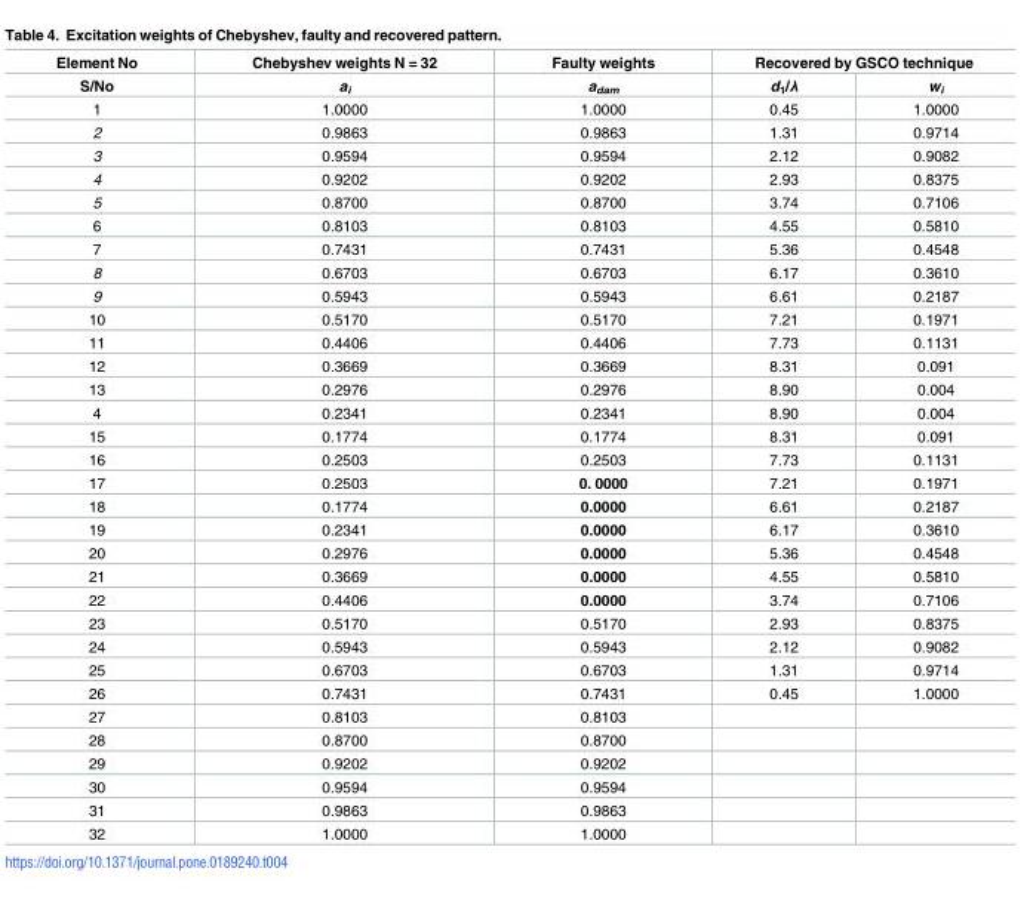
<table><thead><tr><td rowspan="2">Element No S/No</td><td rowspan="2">Chebyshev weights N = 32 a<sub>i</sub></td><td rowspan="2">Faulty weights a<sub>dam</sub></td><td colspan="2">Recovered by GSCO technique</td></tr><tr><td>d<sub>1</sub>/λ</td><td>w<sub>i</sub></td></tr></thead><tbody><tr><td>1</td><td>1.0000</td><td>1.0000</td><td>0.45</td><td>1.0000</td></tr><tr><td>2</td><td>0.9863</td><td>0.9863</td><td>1.31</td><td>0.9714</td></tr><tr><td>3</td><td>0.9594</td><td>0.9594</td><td>2.12</td><td>0.9082</td></tr><tr><td>4</td><td>0.9202</td><td>0.9202</td><td>2.93</td><td>0.8375</td></tr><tr><td>5</td><td>0.8700</td><td>0.8700</td><td>3.74</td><td>0.7106</td></tr><tr><td>6</td><td>0.8103</td><td>0.8103</td><td>4.55</td><td>0.5810</td></tr><tr><td>7</td><td>0.7431</td><td>0.7431</td><td>5.36</td><td>0.4548</td></tr><tr><td>8</td><td>0.6703</td><td>0.6703</td><td>6.17</td><td>0.3610</td></tr><tr><td>9</td><td>0.5943</td><td>0.5943</td><td>6.61</td><td>0.2187</td></tr><tr><td>10</td><td>0.5170</td><td>0.5170</td><td>7.21</td><td>0.1971</td></tr><tr><td>11</td><td>0.4406</td><td>0.4406</td><td>7.73</td><td>0.1131</td></tr><tr><td>12</td><td>0.3669</td><td>0.3669</td><td>8.31</td><td>0.091</td></tr><tr><td>13</td><td>0.2976</td><td>0.2976</td><td>8.90</td><td>0.004</td></tr><tr><td>4</td><td>0.2341</td><td>0.2341</td><td>8.90</td><td>0.004</td></tr><tr><td>15</td><td>0.1774</td><td>0.1774</td><td>8.31</td><td>0.091</td></tr><tr><td>16</td><td>0.2503</td><td>0.2503</td><td>7.73</td><td>0.1131</td></tr><tr><td>17</td><td>0.2503</td><td>0. 0000</td><td>7.21</td><td>0.1971</td></tr><tr><td>18</td><td>0.1774</td><td>0.0000</td><td>6.61</td><td>0.2187</td></tr><tr><td>19</td><td>0.2341</td><td>0.0000</td><td>6.17</td><td>0.3610</td></tr><tr><td>20</td><td>0.2976</td><td>0.0000</td><td>5.36</td><td>0.4548</td></tr><tr><td>21</td><td>0.3669</td><td>0.0000</td><td>4.55</td><td>0.5810</td></tr><tr><td>22</td><td>0.4406</td><td>0.0000</td><td>3.74</td><td>0.7106</td></tr><tr><td>23</td><td>0.5170</td><td>0.5170</td><td>2.93</td><td>0.8375</td></tr><tr><td>24</td><td>0.5943</td><td>0.5943</td><td>2.12</td><td>0.9082</td></tr><tr><td>25</td><td>0.6703</td><td>0.6703</td><td>1.31</td><td>0.9714</td></tr><tr><td>26</td><td>0.7431</td><td>0.7431</td><td>0.45</td><td>1.0000</td></tr><tr><td>27</td><td>0.8103</td><td>0.8103</td><td></td><td></td></tr><tr><td>28</td><td>0.8700</td><td>0.8700</td><td></td><td></td></tr><tr><td>29</td><td>0.9202</td><td>0.9202</td><td></td><td></td></tr><tr><td>30</td><td>0.9594</td><td>0.9594</td><td></td><td></td></tr><tr><td>31</td><td>0.9863</td><td>0.9863</td><td></td><td></td></tr><tr><td>32</td><td>1.0000</td><td>1.0000</td><td></td><td></td></tr></tbody></table>